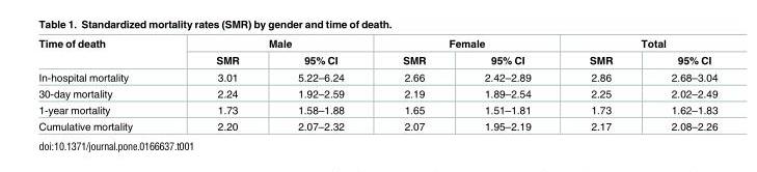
<table><thead><tr><td rowspan="2">Time of death</td><td colspan="2">Male</td><td colspan="2">Female</td><td colspan="2">Total</td></tr><tr><td>SMR</td><td>95% CI</td><td>SMR</td><td>95% CI</td><td>SMR</td><td>95% CI</td></tr></thead><tbody><tr><td>In-hospital mortality</td><td>3.01</td><td>5.22–6.24</td><td>2.66</td><td>2.42–2.89</td><td>2.86</td><td>2.68–3.04</td></tr><tr><td>30-day mortality</td><td>2.24</td><td>1.92–2.59</td><td>2.19</td><td>1.89–2.54</td><td>2.25</td><td>2.02–2.49</td></tr><tr><td>1-year mortality</td><td>1.73</td><td>1.58–1.88</td><td>1.65</td><td>1.51–1.81</td><td>1.73</td><td>1.62–1.83</td></tr><tr><td>Cumulative mortality</td><td>2.20</td><td>2.07–2.32</td><td>2.07</td><td>1.95–2.19</td><td>2.17</td><td>2.08–2.26</td></tr></tbody></table>